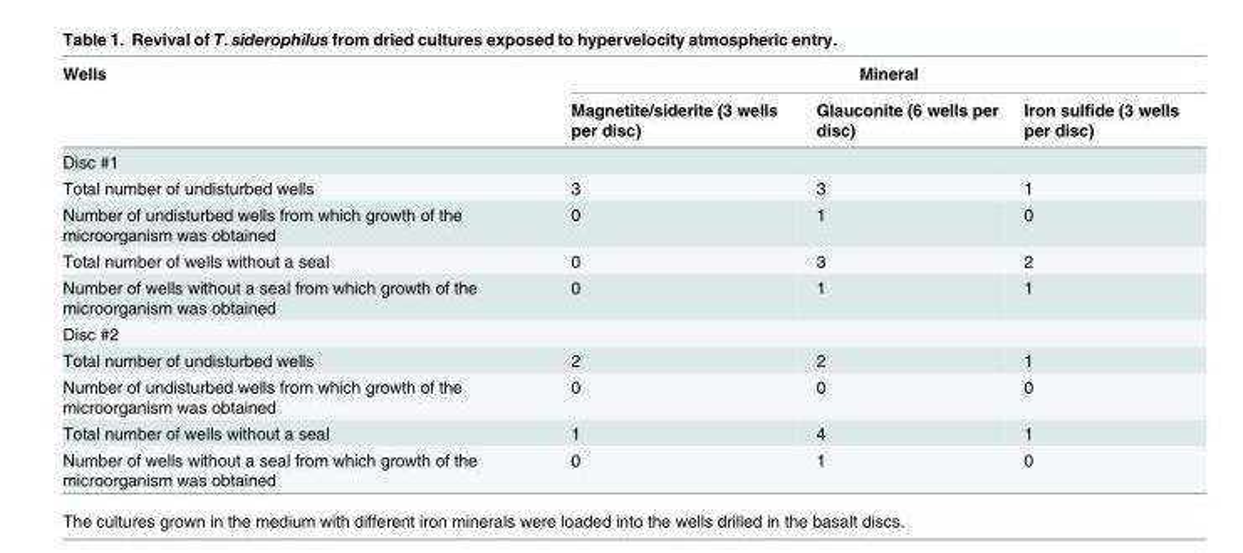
<table><thead><tr><td rowspan="2">Wells</td><td colspan="3">Mineral</td></tr><tr><td>Magnetite/siderite (3 wells per disc)</td><td>Glauconite (6 wells per disc)</td><td>Iron sulfide (3 wells per disc)</td></tr></thead><tbody><tr><td colspan="4">Disc #1</td></tr><tr><td>Total number of undisturbed wells</td><td>3</td><td>3</td><td>1</td></tr><tr><td>Number of undisturbed wells from which growth of the microorganism was obtained</td><td>0</td><td>1</td><td>0</td></tr><tr><td>Total number of wells without a seal</td><td>0</td><td>3</td><td>2</td></tr><tr><td>Number of wells without a seal from which growth of the microorganism was obtained</td><td>0</td><td>1</td><td>1</td></tr><tr><td colspan="4">Disc #2</td></tr><tr><td>Total number of undisturbed wells</td><td>2</td><td>2</td><td>1</td></tr><tr><td>Number of undisturbed wells from which growth of the microorganism was obtained</td><td>0</td><td>0</td><td>0</td></tr><tr><td>Total number of wells without a seal</td><td>1</td><td>4</td><td>1</td></tr><tr><td>Number of wells without a seal from which growth of the microorganism was obtained</td><td>0</td><td>1</td><td>0</td></tr></tbody></table>